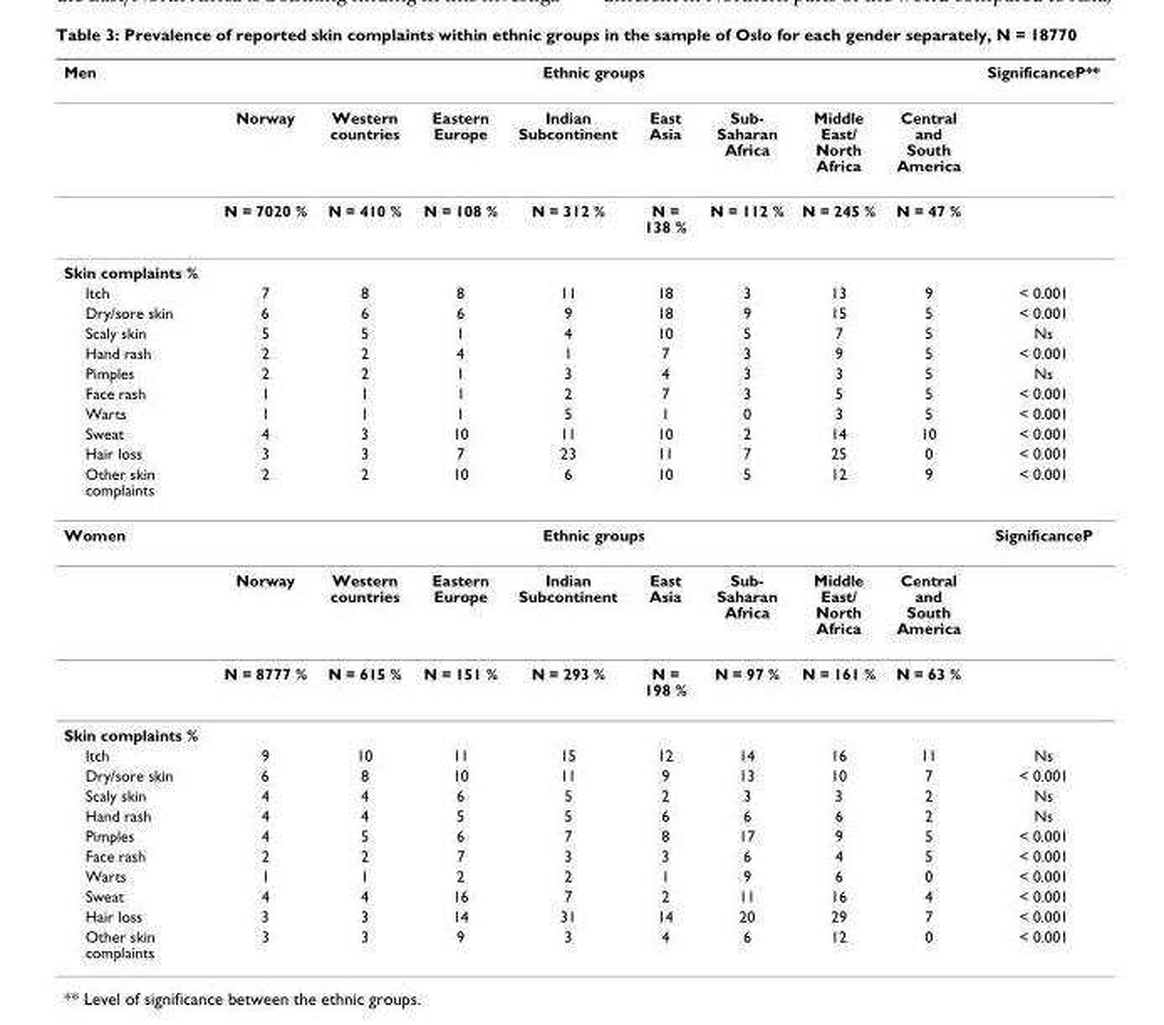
<table><thead><tr><td rowspan="2">Men</td><td colspan="8">Ethnic groups</td><td rowspan="2">SignificanceP**</td></tr><tr><td>Norway</td><td>Western countries</td><td>Eastern Europe</td><td>Indian Subcontinent</td><td>East Asia</td><td>Sub- Saharan Africa</td><td>Middle East/ North Africa</td><td>Central and South America</td></tr></thead><tbody><tr><td></td><td>N = 7020 %</td><td>N = 410 %</td><td>N = 108 %</td><td>N = 312 %</td><td>N = 138 %</td><td>N = 112 %</td><td>N = 245 %</td><td>N = 47 %</td><td></td></tr><tr><td colspan="10">Skin complaints %</td></tr><tr><td>Itch</td><td>7</td><td>8</td><td>8</td><td>11</td><td>18</td><td>3</td><td>13</td><td>9</td><td>&lt; 0.001</td></tr><tr><td>Dry/sore skin</td><td>6</td><td>6</td><td>6</td><td>9</td><td>18</td><td>9</td><td>15</td><td>5</td><td>&lt; 0.001</td></tr><tr><td>Scaly skin</td><td>5</td><td>5</td><td>1</td><td>4</td><td>10</td><td>5</td><td>7</td><td>5</td><td>Ns</td></tr><tr><td>Hand rash</td><td>2</td><td>2</td><td>4</td><td>1</td><td>7</td><td>3</td><td>9</td><td>5</td><td>&lt; 0.001</td></tr><tr><td>Pimples</td><td>2</td><td>2</td><td>1</td><td>3</td><td>4</td><td>3</td><td>3</td><td>5</td><td>Ns</td></tr><tr><td>Face rash</td><td>1</td><td>1</td><td>1</td><td>2</td><td>7</td><td>3</td><td>5</td><td>5</td><td>&lt; 0.001</td></tr><tr><td>Warts</td><td>1</td><td>1</td><td>1</td><td>5</td><td>1</td><td>0</td><td>3</td><td>5</td><td>&lt; 0.001</td></tr><tr><td>Sweat</td><td>4</td><td>3</td><td>10</td><td>11</td><td>10</td><td>2</td><td>14</td><td>10</td><td>&lt; 0.001</td></tr><tr><td>Hair loss</td><td>3</td><td>3</td><td>7</td><td>23</td><td>11</td><td>7</td><td>25</td><td>0</td><td>&lt; 0.001</td></tr><tr><td>Other skin complaints</td><td>2</td><td>2</td><td>10</td><td>6</td><td>10</td><td>5</td><td>12</td><td>9</td><td>&lt; 0.001</td></tr><tr><td rowspan="3">Women</td><td colspan="8">Ethnic groups</td><td>SignificanceP</td></tr><tr><td>Norway</td><td>Western countries</td><td>Eastern Europe</td><td>Indian Subcontinent</td><td>East Asia</td><td>Sub- Saharan Africa</td><td>Middle East/ North Africa</td><td>Central and South America</td><td></td></tr><tr><td>N = 8777 %</td><td>N = 615 %</td><td>N = 151 %</td><td>N = 293 %</td><td>N = 198 %</td><td>N = 97 %</td><td>N = 161 %</td><td>N = 63 %</td><td></td></tr><tr><td colspan="10">Skin complaints %</td></tr><tr><td>Itch</td><td>9</td><td>10</td><td>11</td><td>15</td><td>12</td><td>14</td><td>16</td><td>11</td><td>Ns</td></tr><tr><td>Dry/sore skin</td><td>6</td><td>8</td><td>10</td><td>11</td><td>9</td><td>13</td><td>10</td><td>7</td><td>&lt; 0.001</td></tr><tr><td>Scaly skin</td><td>4</td><td>4</td><td>6</td><td>5</td><td>2</td><td>3</td><td>3</td><td>2</td><td>Ns</td></tr><tr><td>Hand rash</td><td>4</td><td>4</td><td>5</td><td>5</td><td>6</td><td>6</td><td>6</td><td>2</td><td>Ns</td></tr><tr><td>Pimples</td><td>4</td><td>5</td><td>6</td><td>7</td><td>8</td><td>17</td><td>9</td><td>5</td><td>&lt; 0.001</td></tr><tr><td>Face rash</td><td>2</td><td>2</td><td>7</td><td>3</td><td>3</td><td>6</td><td>4</td><td>5</td><td>&lt; 0.001</td></tr><tr><td>Warts</td><td>1</td><td>1</td><td>2</td><td>2</td><td>1</td><td>9</td><td>6</td><td>0</td><td>&lt; 0.001</td></tr><tr><td>Sweat</td><td>4</td><td>4</td><td>16</td><td>7</td><td>2</td><td>11</td><td>16</td><td>4</td><td>&lt; 0.001</td></tr><tr><td>Hair loss</td><td>3</td><td>3</td><td>14</td><td>31</td><td>14</td><td>20</td><td>29</td><td>7</td><td>&lt; 0.001</td></tr><tr><td>Other skin complaints</td><td>3</td><td>3</td><td>9</td><td>3</td><td>4</td><td>6</td><td>12</td><td>0</td><td>&lt; 0.001</td></tr></tbody></table>